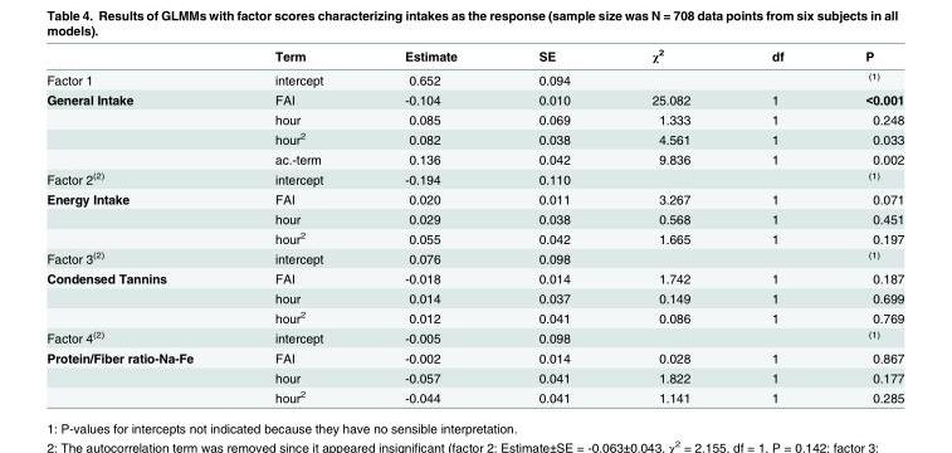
<table><thead><tr><td></td><td>Term</td><td>Estimate</td><td>SE</td><td>χ<sup>2</sup></td><td>df</td><td>P</td></tr></thead><tbody><tr><td>Factor 1</td><td>intercept</td><td>0.652</td><td>0.094</td><td></td><td></td><td><sup>(1)</sup></td></tr><tr><td rowspan="4">General Intake</td><td>FAI</td><td>-0.104</td><td>0.010</td><td>25.082</td><td>1</td><td>&lt;0.001</td></tr><tr><td>hour</td><td>0.085</td><td>0.069</td><td>1.333</td><td>1</td><td>0.248</td></tr><tr><td>hour<sup>2</sup></td><td>0.082</td><td>0.038</td><td>4.561</td><td>1</td><td>0.033</td></tr><tr><td>ac.-term</td><td>0.136</td><td>0.042</td><td>9.836</td><td>1</td><td>0.002</td></tr><tr><td>Factor 2<sup>(2)</sup></td><td>intercept</td><td>-0.194</td><td>0.110</td><td></td><td></td><td><sup>(1)</sup></td></tr><tr><td rowspan="3">Energy Intake</td><td>FAI</td><td>0.020</td><td>0.011</td><td>3.267</td><td>1</td><td>0.071</td></tr><tr><td>hour</td><td>0.029</td><td>0.038</td><td>0.568</td><td>1</td><td>0.451</td></tr><tr><td>hour<sup>2</sup></td><td>0.055</td><td>0.042</td><td>1.665</td><td>1</td><td>0.197</td></tr><tr><td>Factor 3<sup>(2)</sup></td><td>intercept</td><td>0.076</td><td>0.098</td><td></td><td></td><td><sup>(1)</sup></td></tr><tr><td rowspan="3">Condensed Tannins</td><td>FAI</td><td>-0.018</td><td>0.014</td><td>1.742</td><td>1</td><td>0.187</td></tr><tr><td>hour</td><td>0.014</td><td>0.037</td><td>0.149</td><td>1</td><td>0.699</td></tr><tr><td>hour<sup>2</sup></td><td>0.012</td><td>0.041</td><td>0.086</td><td>1</td><td>0.769</td></tr><tr><td>Factor 4<sup>(2)</sup></td><td>intercept</td><td>-0.005</td><td>0.098</td><td></td><td></td><td><sup>(1)</sup></td></tr><tr><td rowspan="3">Protein/Fiber ratio-Na-Fe</td><td>FAI</td><td>-0.002</td><td>0.014</td><td>0.028</td><td>1</td><td>0.867</td></tr><tr><td>hour</td><td>-0.057</td><td>0.041</td><td>1.822</td><td>1</td><td>0.177</td></tr><tr><td>hour<sup>2</sup></td><td>-0.044</td><td>0.041</td><td>1.141</td><td>1</td><td>0.285</td></tr></tbody></table>